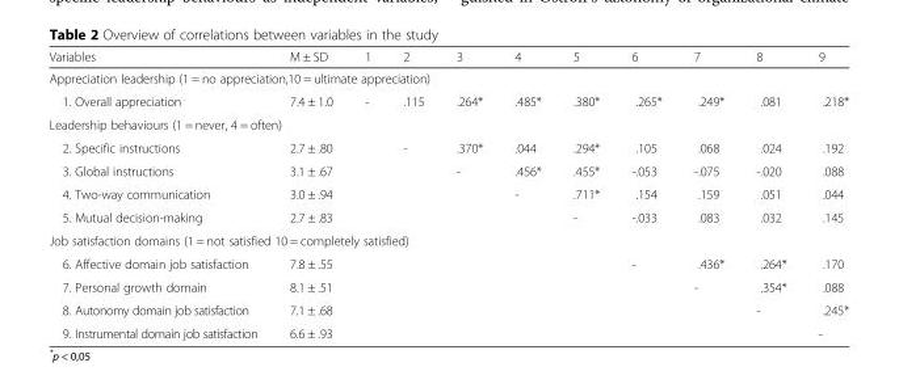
<table><thead><tr><td>Variables</td><td>M ± SD</td><td>1</td><td>2</td><td>3</td><td>4</td><td>5</td><td>6</td><td>7</td><td>8</td><td>9</td></tr></thead><tbody><tr><td colspan="11">Appreciation leadership (1 = no appreciation,10 = ultimate appreciation)</td></tr><tr><td>1. Overall appreciation</td><td>7.4 ± 1.0</td><td>-</td><td>.115</td><td>.264*</td><td>.485*</td><td>.380*</td><td>.265*</td><td>.249*</td><td>.081</td><td>.218*</td></tr><tr><td colspan="11">Leadership behaviours (1 = never, 4 = often)</td></tr><tr><td>2. Specific instructions</td><td>2.7 ± .80</td><td></td><td>-</td><td>.370*</td><td>.044</td><td>.294*</td><td>.105</td><td>.068</td><td>.024</td><td>.192</td></tr><tr><td>3. Global instructions</td><td>3.1 ± .67</td><td></td><td></td><td>-</td><td>.456*</td><td>.455*</td><td>-.053</td><td>-.075</td><td>-.020</td><td>.088</td></tr><tr><td>4. Two-way communication</td><td>3.0 ± .94</td><td></td><td></td><td></td><td>-</td><td>.711*</td><td>.154</td><td>.159</td><td>.051</td><td>.044</td></tr><tr><td>5. Mutual decision-making</td><td>2.7 ± .83</td><td></td><td></td><td></td><td></td><td>-</td><td>-.033</td><td>.083</td><td>.032</td><td>.145</td></tr><tr><td colspan="11">Job satisfaction domains (1 = not satisfied 10 = completely satisfied)</td></tr><tr><td>6. Affective domain job satisfaction</td><td>7.8 ± .55</td><td></td><td></td><td></td><td></td><td></td><td>-</td><td>.436*</td><td>.264*</td><td>.170</td></tr><tr><td>7. Personal growth domain</td><td>8.1 ± .51</td><td></td><td></td><td></td><td></td><td></td><td></td><td>-</td><td>.354*</td><td>.088</td></tr><tr><td>8. Autonomy domain job satisfaction</td><td>7.1 ± .68</td><td></td><td></td><td></td><td></td><td></td><td></td><td></td><td>-</td><td>.245*</td></tr><tr><td>9. Instrumental domain job satisfaction</td><td>6.6 ± .93</td><td></td><td></td><td></td><td></td><td></td><td></td><td></td><td></td><td>-</td></tr></tbody></table>